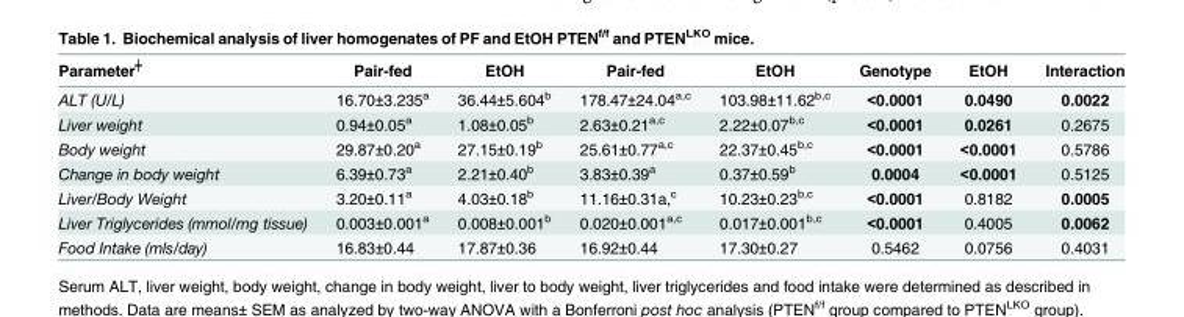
<table><thead><tr><td>Parameter<sup>╪</sup></td><td>Pair-fed</td><td>EtOH</td><td>Pair-fed</td><td>EtOH</td><td>Genotype</td><td>EtOH</td><td>Interaction</td></tr></thead><tbody><tr><td>ALT (U/L)</td><td>16.70±3.235<sup>a</sup></td><td>36.44±5.604<sup>b</sup></td><td>178.47±24.04<sup>a,c</sup></td><td>103.98±11.62<sup>b,c</sup></td><td>&lt;0.0001</td><td>0.0490</td><td>0.0022</td></tr><tr><td>Liver weight</td><td>0.94±0.05<sup>a</sup></td><td>1.08±0.05<sup>b</sup></td><td>2.63±0.21<sup>a,c</sup></td><td>2.22±0.07<sup>b,c</sup></td><td>&lt;0.0001</td><td>0.0261</td><td>0.2675</td></tr><tr><td>Body weight</td><td>29.87±0.20<sup>a</sup></td><td>27.15±0.19<sup>b</sup></td><td>25.61±0.77<sup>a,c</sup></td><td>22.37±0.45<sup>b,c</sup></td><td>&lt;0.0001</td><td>&lt;0.0001</td><td>0.5786</td></tr><tr><td>Change in body weight</td><td>6.39±0.73<sup>a</sup></td><td>2.21±0.40<sup>b</sup></td><td>3.83±0.39<sup>a</sup></td><td>0.37±0.59<sup>b</sup></td><td>0.0004</td><td>&lt;0.0001</td><td>0.5125</td></tr><tr><td>Liver/Body Weight</td><td>3.20±0.11<sup>a</sup></td><td>4.03±0.18<sup>b</sup></td><td>11.16±0.31a,<sup>c</sup></td><td>10.23±0.23<sup>b,c</sup></td><td>&lt;0.0001</td><td>0.8182</td><td>0.0005</td></tr><tr><td>Liver Triglycerides (mmol/mg tissue)</td><td>0.003±0.001<sup>a</sup></td><td>0.008±0.001<sup>b</sup></td><td>0.020±0.001<sup>a,c</sup></td><td>0.017±0.001<sup>b,c</sup></td><td>&lt;0.0001</td><td>0.4005</td><td>0.0062</td></tr><tr><td>Food Intake (mls/day)</td><td>16.83±0.44</td><td>17.87±0.36</td><td>16.92±0.44</td><td>17.30±0.27</td><td>0.5462</td><td>0.0756</td><td>0.4031</td></tr></tbody></table>